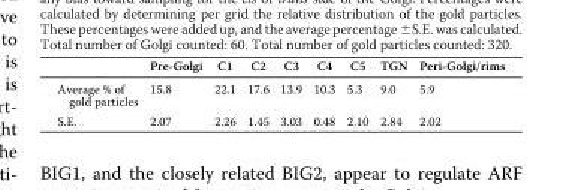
<table><thead><tr><td></td><td>Pre-Golgi</td><td>C1</td><td>C2</td><td>C3</td><td>C4</td><td>C5</td><td>TGN</td><td>Peri-Golgi/rims</td></tr></thead><tbody><tr><td>Average % of gold particles</td><td>15.8</td><td>22.1</td><td>17.6</td><td>13.9</td><td>10.3</td><td>5.3</td><td>9.0</td><td>5.9</td></tr><tr><td>S.E.</td><td>2.07</td><td>2.26</td><td>1.45</td><td>3.03</td><td>0.48</td><td>2.10</td><td>2.84</td><td>2.02</td></tr></tbody></table>